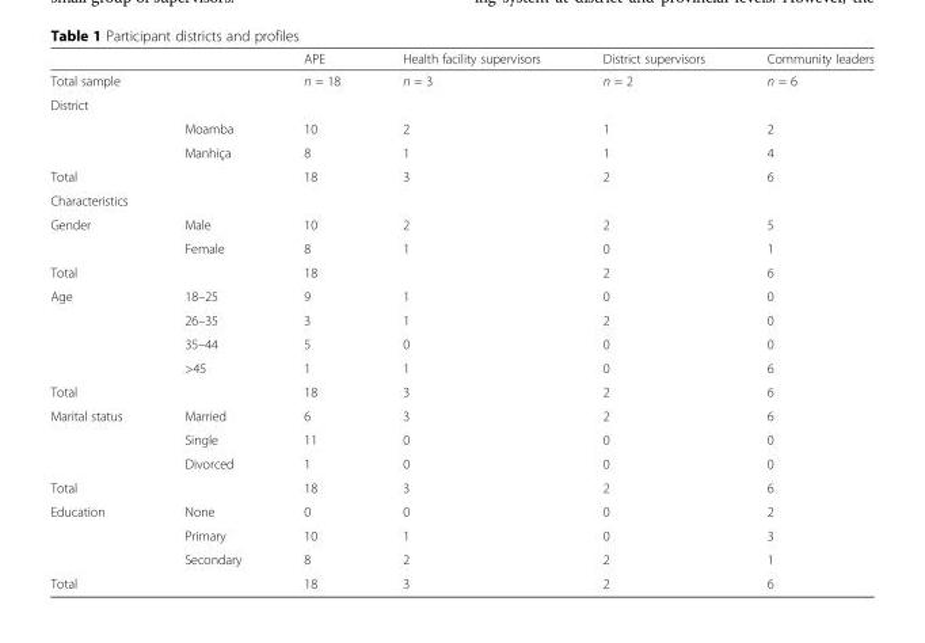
<table><thead><tr><td></td><td></td><td>APE</td><td>Health facility supervisors</td><td>District supervisors</td><td>Community leaders</td></tr></thead><tbody><tr><td colspan="2">Total sample</td><td>n = 18</td><td>n = 3</td><td>n = 2</td><td>n = 6</td></tr><tr><td colspan="6">District</td></tr><tr><td></td><td>Moamba</td><td>10</td><td>2</td><td>1</td><td>2</td></tr><tr><td></td><td>Manhiça</td><td>8</td><td>1</td><td>1</td><td>4</td></tr><tr><td>Total</td><td></td><td>18</td><td>3</td><td>2</td><td>6</td></tr><tr><td colspan="6">Characteristics</td></tr><tr><td rowspan="2">Gender</td><td>Male</td><td>10</td><td>2</td><td>2</td><td>5</td></tr><tr><td>Female</td><td>8</td><td>1</td><td>0</td><td>1</td></tr><tr><td>Total</td><td></td><td>18</td><td></td><td>2</td><td>6</td></tr><tr><td rowspan="4">Age</td><td>18–25</td><td>9</td><td>1</td><td>0</td><td>0</td></tr><tr><td>26–35</td><td>3</td><td>1</td><td>2</td><td>0</td></tr><tr><td>35–44</td><td>5</td><td>0</td><td>0</td><td>0</td></tr><tr><td>&gt;45</td><td>1</td><td>1</td><td>0</td><td>6</td></tr><tr><td>Total</td><td></td><td>18</td><td>3</td><td>2</td><td>6</td></tr><tr><td rowspan="3">Marital status</td><td>Married</td><td>6</td><td>3</td><td>2</td><td>6</td></tr><tr><td>Single</td><td>11</td><td>0</td><td>0</td><td>0</td></tr><tr><td>Divorced</td><td>1</td><td>0</td><td>0</td><td>0</td></tr><tr><td>Total</td><td></td><td>18</td><td>3</td><td>2</td><td>6</td></tr><tr><td rowspan="3">Education</td><td>None</td><td>0</td><td>0</td><td>0</td><td>2</td></tr><tr><td>Primary</td><td>10</td><td>1</td><td>0</td><td>3</td></tr><tr><td>Secondary</td><td>8</td><td>2</td><td>2</td><td>1</td></tr><tr><td>Total</td><td></td><td>18</td><td>3</td><td>2</td><td>6</td></tr></tbody></table>